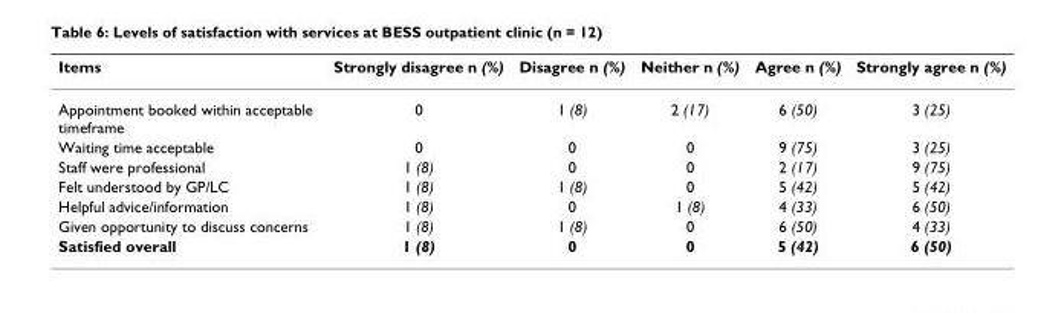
<table><thead><tr><td>Items</td><td>Strongly disagree n (%)</td><td>Disagree n (%)</td><td>Neither n (%)</td><td>Agree n (%)</td><td>Strongly agree n (%)</td></tr></thead><tbody><tr><td>Appointment booked within acceptable timeframe</td><td>0</td><td>1 (8)</td><td>2 (17)</td><td>6 (50)</td><td>3 (25)</td></tr><tr><td>Waiting time acceptable</td><td>0</td><td>0</td><td>0</td><td>9 (75)</td><td>3 (25)</td></tr><tr><td>Staff were professional</td><td>1 (8)</td><td>0</td><td>0</td><td>2 (17)</td><td>9 (75)</td></tr><tr><td>Felt understood by GP/LC</td><td>1 (8)</td><td>1 (8)</td><td>0</td><td>5 (42)</td><td>5 (42)</td></tr><tr><td>Helpful advice/information</td><td>1 (8)</td><td>0</td><td>1 (8)</td><td>4 (33)</td><td>6 (50)</td></tr><tr><td>Given opportunity to discuss concerns</td><td>1 (8)</td><td>1 (8)</td><td>0</td><td>6 (50)</td><td>4 (33)</td></tr><tr><td>Satisfied overall</td><td>1 (8)</td><td>0</td><td>0</td><td>5 (42)</td><td>6 (50)</td></tr></tbody></table>